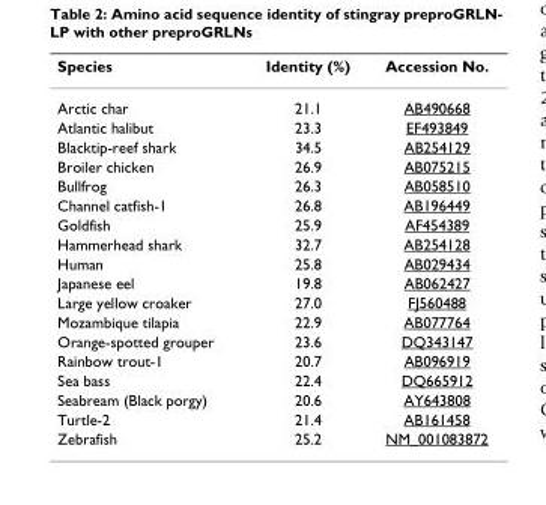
<table><thead><tr><td>Species</td><td>Identity (%)</td><td>Accession No.</td></tr></thead><tbody><tr><td>Arctic char</td><td>21.1</td><td>AB490668</td></tr><tr><td>Atlantic halibut</td><td>23.3</td><td>EF493849</td></tr><tr><td>Blacktip-reef shark</td><td>34.5</td><td>AB254129</td></tr><tr><td>Broiler chicken</td><td>26.9</td><td>AB075215</td></tr><tr><td>Bullfrog</td><td>26.3</td><td>AB058510</td></tr><tr><td>Channel catfish-1</td><td>26.8</td><td>AB196449</td></tr><tr><td>Goldfish</td><td>25.9</td><td>AF454389</td></tr><tr><td>Hammerhead shark</td><td>32.7</td><td>AB254128</td></tr><tr><td>Human</td><td>25.8</td><td>AB029434</td></tr><tr><td>Japanese eel</td><td>19.8</td><td>AB062427</td></tr><tr><td>Large yellow croaker</td><td>27.0</td><td>FJ560488</td></tr><tr><td>Mozambique tilapia</td><td>22.9</td><td>AB077764</td></tr><tr><td>Orange-spotted grouper</td><td>23.6</td><td>DQ343147</td></tr><tr><td>Rainbow trout-1</td><td>20.7</td><td>AB096919</td></tr><tr><td>Sea bass</td><td>22.4</td><td>DQ665912</td></tr><tr><td>Seabream (Black porgy)</td><td>20.6</td><td>AY643808</td></tr><tr><td>Turtle-2</td><td>21.4</td><td>AB161458</td></tr><tr><td>Zebrafish</td><td>25.2</td><td>NM_001083872</td></tr></tbody></table>